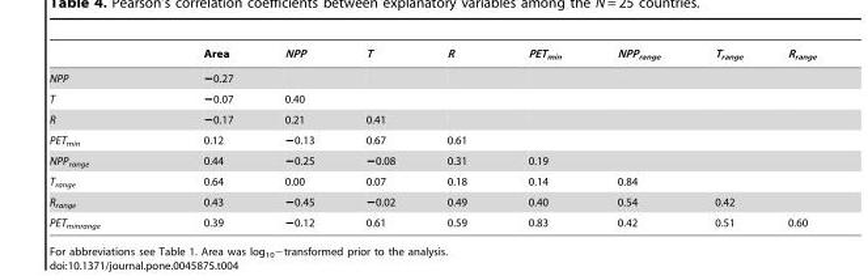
<table><thead><tr><td></td><td>Area</td><td>NPP</td><td>T</td><td>R</td><td>PET<sub>min</sub></td><td>NPP<sub>range</sub></td><td>T<sub>range</sub></td><td>R<sub>range</sub></td></tr></thead><tbody><tr><td>NPP</td><td>−0.27</td><td></td><td></td><td></td><td></td><td></td><td></td><td></td></tr><tr><td>T</td><td>−0.07</td><td>0.40</td><td></td><td></td><td></td><td></td><td></td><td></td></tr><tr><td>R</td><td>−0.17</td><td>0.21</td><td>0.41</td><td></td><td></td><td></td><td></td><td></td></tr><tr><td>PET<sub>min</sub></td><td>0.12</td><td>−0.13</td><td>0.67</td><td>0.61</td><td></td><td></td><td></td><td></td></tr><tr><td>NPP<sub>range</sub></td><td>0.44</td><td>−0.25</td><td>−0.08</td><td>0.31</td><td>0.19</td><td></td><td></td><td></td></tr><tr><td>T<sub>range</sub></td><td>0.64</td><td>0.00</td><td>0.07</td><td>0.18</td><td>0.14</td><td>0.84</td><td></td><td></td></tr><tr><td>R<sub>range</sub></td><td>0.43</td><td>−0.45</td><td>−0.02</td><td>0.49</td><td>0.40</td><td>0.54</td><td>0.42</td><td></td></tr><tr><td>PET<sub>minrange</sub></td><td>0.39</td><td>−0.12</td><td>0.61</td><td>0.59</td><td>0.83</td><td>0.42</td><td>0.51</td><td>0.60</td></tr></tbody></table>